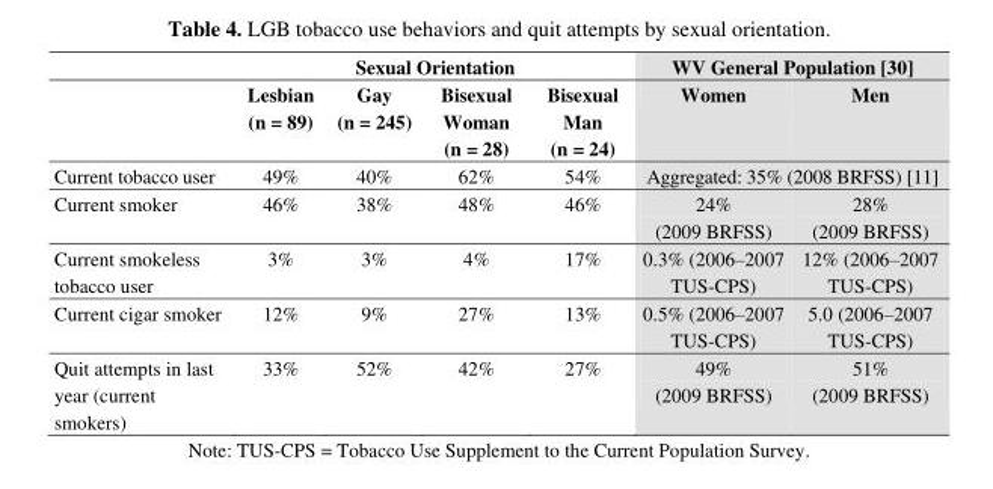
<table><thead><tr><td colspan="5">Sexual Orientation</td><td colspan="2">WV General Population [30]</td></tr><tr><td></td><td>Lesbian (n = 89)</td><td>Gay (n = 245)</td><td>Bisexual Woman (n = 28)</td><td>Bisexual Man (n = 24)</td><td>Women</td><td>Men</td></tr></thead><tbody><tr><td>Current tobacco user</td><td>49%</td><td>40%</td><td>62%</td><td>54%</td><td colspan="2">Aggregated: 35% (2008 BRFSS) [11]</td></tr><tr><td>Current smoker</td><td>46%</td><td>38%</td><td>48%</td><td>46%</td><td>24% (2009 BRFSS)</td><td>28% (2009 BRFSS)</td></tr><tr><td>Current smokeless tobacco user</td><td>3%</td><td>3%</td><td>4%</td><td>17%</td><td>0.3% (2006–2007 TUS-CPS)</td><td>12% (2006–2007 TUS-CPS)</td></tr><tr><td>Current cigar smoker</td><td>12%</td><td>9%</td><td>27%</td><td>13%</td><td>0.5% (2006–2007 TUS-CPS)</td><td>5.0 (2006–2007 TUS-CPS)</td></tr><tr><td>Quit attempts in last year (current smokers)</td><td>33%</td><td>52%</td><td>42%</td><td>27%</td><td>49% (2009 BRFSS)</td><td>51% (2009 BRFSS)</td></tr></tbody></table>